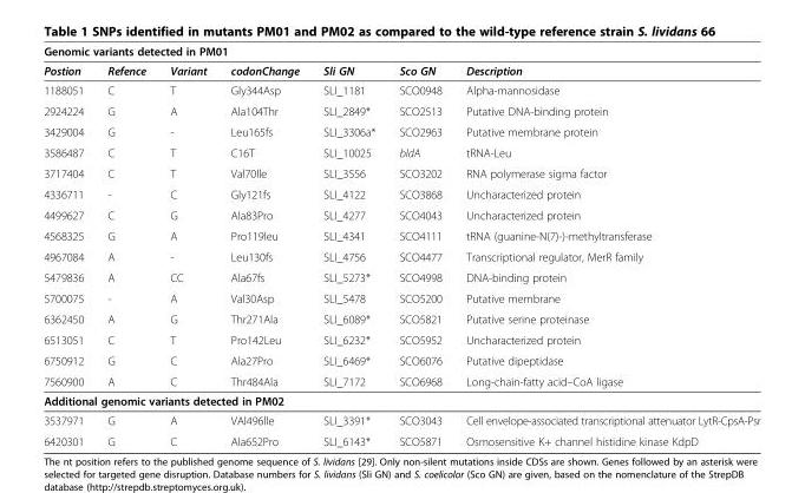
<table><thead><tr><td colspan="7">Genomic variants detected in PM01</td></tr><tr><td>Postion</td><td>Refence</td><td>Variant</td><td>codonChange</td><td>Sli GN</td><td>Sco GN</td><td>Description</td></tr></thead><tbody><tr><td>1188051</td><td>C</td><td>T</td><td>Gly344Asp</td><td>SLI_1181</td><td>SCO0948</td><td>Alpha-mannosidase</td></tr><tr><td>2924224</td><td>G</td><td>A</td><td>Ala104Thr</td><td>SLI_2849*</td><td>SCO2513</td><td>Putative DNA-binding protein</td></tr><tr><td>3429004</td><td>G</td><td>-</td><td>Leu165fs</td><td>SLI_3306a*</td><td>SCO2963</td><td>Putative membrane protein</td></tr><tr><td>3586487</td><td>C</td><td>T</td><td>C16T</td><td>SLI_10025</td><td>bldA</td><td>tRNA-Leu</td></tr><tr><td>3717404</td><td>C</td><td>T</td><td>Val70lle</td><td>SLI_3556</td><td>SCO3202</td><td>RNA polymerase sigma factor</td></tr><tr><td>4336711</td><td>-</td><td>C</td><td>Gly121fs</td><td>SLI_4122</td><td>SCO3868</td><td>Uncharacterized protein</td></tr><tr><td>4499627</td><td>C</td><td>G</td><td>Ala83Pro</td><td>SLI_4277</td><td>SCO4043</td><td>Uncharacterized protein</td></tr><tr><td>4568325</td><td>G</td><td>A</td><td>Pro119leu</td><td>SLI_4341</td><td>SCO4111</td><td>tRNA (guanine-N(7)-)-methyltransferase</td></tr><tr><td>4967084</td><td>A</td><td>-</td><td>Leu130fs</td><td>SLI_4756</td><td>SCO4477</td><td>Transcriptional regulator, MerR family</td></tr><tr><td>5479836</td><td>A</td><td>CC</td><td>Ala67fs</td><td>SLI_5273*</td><td>SCO4998</td><td>DNA-binding protein</td></tr><tr><td>5700075</td><td>-</td><td>A</td><td>Val30Asp</td><td>SLI_5478</td><td>SCO5200</td><td>Putative membrane</td></tr><tr><td>6362450</td><td>A</td><td>G</td><td>Thr271Ala</td><td>SLI_6089*</td><td>SCO5821</td><td>Putative serine proteinase</td></tr><tr><td>6513051</td><td>C</td><td>T</td><td>Pro142Leu</td><td>SLI_6232*</td><td>SCO5952</td><td>Uncharacterized protein</td></tr><tr><td>6750912</td><td>G</td><td>C</td><td>Ala27Pro</td><td>SLI_6469*</td><td>SCO6076</td><td>Putative dipeptidase</td></tr><tr><td>7560900</td><td>A</td><td>C</td><td>Thr484Ala</td><td>SLI_7172</td><td>SCO6968</td><td>Long-chain-fatty acid–CoA ligase</td></tr><tr><td colspan="7">Additional genomic variants detected in PM02</td></tr><tr><td>3537971</td><td>G</td><td>A</td><td>VAl496lle</td><td>SLI_3391*</td><td>SCO3043</td><td>Cell envelope-associated transcriptional attenuator LytR-CpsA-Psr</td></tr><tr><td>6420301</td><td>G</td><td>C</td><td>Ala652Pro</td><td>SLI_6143*</td><td>SCO5871</td><td>Osmosensitive K+ channel histidine kinase KdpD</td></tr></tbody></table>